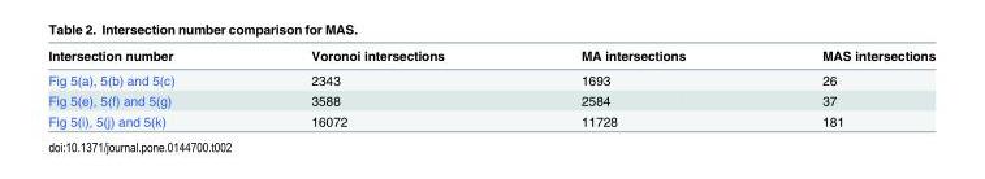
<table><thead><tr><td>Intersection number</td><td>Voronoi intersections</td><td>MA intersections</td><td>MAS intersections</td></tr></thead><tbody><tr><td>Fig 5(a), 5(b) and 5(c)</td><td>2343</td><td>1693</td><td>26</td></tr><tr><td>Fig 5(e), 5(f) and 5(g)</td><td>3588</td><td>2584</td><td>37</td></tr><tr><td>Fig 5(i), 5(j) and 5(k)</td><td>16072</td><td>11728</td><td>181</td></tr></tbody></table>